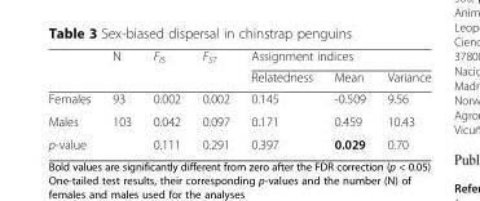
<table><thead><tr><td rowspan="2"></td><td rowspan="2">N</td><td rowspan="2">F<sub>IS</sub></td><td rowspan="2">F<sub>ST</sub></td><td colspan="3">Assignment indices</td></tr><tr><td>Relatedness</td><td>Mean</td><td>Variance</td></tr></thead><tbody><tr><td>Females</td><td>93</td><td>0.002</td><td>0.002</td><td>0.145</td><td>-0.509</td><td>9.56</td></tr><tr><td>Males</td><td>103</td><td>0.042</td><td>0.097</td><td>0.171</td><td>0.459</td><td>10.43</td></tr><tr><td>p-value</td><td></td><td>0.111</td><td>0.291</td><td>0.397</td><td>0.029</td><td>0.70</td></tr></tbody></table>